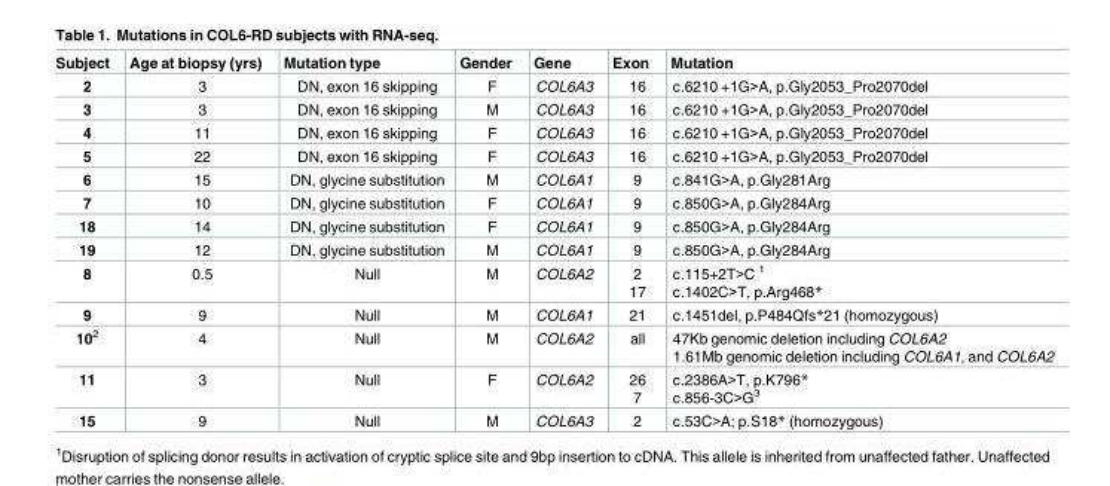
<table><thead><tr><td>Subject</td><td>Age at biopsy (yrs)</td><td>Mutation type</td><td>Gender</td><td>Gene</td><td>Exon</td><td>Mutation</td></tr></thead><tbody><tr><td>2</td><td>3</td><td>DN, exon 16 skipping</td><td>F</td><td>COL6A3</td><td>16</td><td>c.6210 +1G&gt;A, p.Gly2053_Pro2070del</td></tr><tr><td>3</td><td>3</td><td>DN, exon 16 skipping</td><td>M</td><td>COL6A3</td><td>16</td><td>c.6210 +1G&gt;A, p.Gly2053_Pro2070del</td></tr><tr><td>4</td><td>11</td><td>DN, exon 16 skipping</td><td>F</td><td>COL6A3</td><td>16</td><td>c.6210 +1G&gt;A, p.Gly2053_Pro2070del</td></tr><tr><td>5</td><td>22</td><td>DN, exon 16 skipping</td><td>F</td><td>COL6A3</td><td>16</td><td>c.6210 +1G&gt;A, p.Gly2053_Pro2070del</td></tr><tr><td>6</td><td>15</td><td>DN, glycine substitution</td><td>M</td><td>COL6A1</td><td>9</td><td>c.841G&gt;A, p.Gly281Arg</td></tr><tr><td>7</td><td>10</td><td>DN, glycine substitution</td><td>F</td><td>COL6A1</td><td>9</td><td>c.850G&gt;A, p.Gly284Arg</td></tr><tr><td>18</td><td>14</td><td>DN, glycine substitution</td><td>F</td><td>COL6A1</td><td>9</td><td>c.850G&gt;A, p.Gly284Arg</td></tr><tr><td>19</td><td>12</td><td>DN, glycine substitution</td><td>M</td><td>COL6A1</td><td>9</td><td>c.850G&gt;A, p.Gly284Arg</td></tr><tr><td>8</td><td>0.5</td><td>Null</td><td>M</td><td>COL6A2</td><td>2 17</td><td>c.115+2T&gt;C <sup>1</sup> c.1402C&gt;T, p.Arg468*</td></tr><tr><td>9</td><td>9</td><td>Null</td><td>M</td><td>COL6A1</td><td>21</td><td>c.1451del, p.P484Qfs*21 (homozygous)</td></tr><tr><td>10<sup>2</sup></td><td>4</td><td>Null</td><td>M</td><td>COL6A2</td><td>all</td><td>47Kb genomic deletion including COL6A2 1.61Mb genomic deletion including COL6A1, and COL6A2</td></tr><tr><td>11</td><td>3</td><td>Null</td><td>F</td><td>COL6A2</td><td>26 7</td><td>c.2386A&gt;T, p.K796* c.856-3C&gt;G<sup>3</sup></td></tr><tr><td>15</td><td>9</td><td>Null</td><td>M</td><td>COL6A3</td><td>2</td><td>c.53C&gt;A; p.S18* (homozygous)</td></tr></tbody></table>